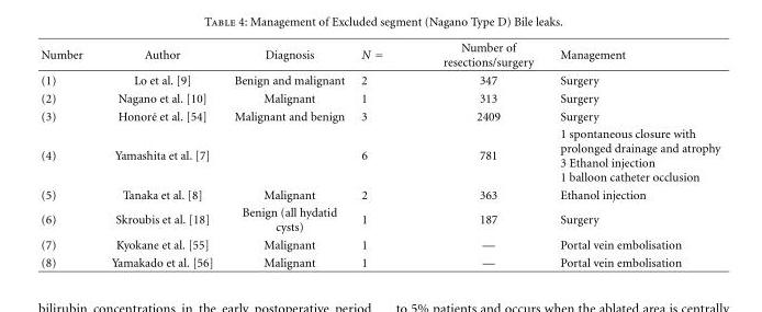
<table><thead><tr><td>Number</td><td>Author</td><td>Diagnosis</td><td>N =</td><td>Number of resections/surgery</td><td>Management</td></tr></thead><tbody><tr><td>(1)</td><td>Lo et al. [9]</td><td>Benign and malignant</td><td>2</td><td>347</td><td>Surgery</td></tr><tr><td>(2)</td><td>Nagano et al. [10]</td><td>Malignant</td><td>1</td><td>313</td><td>Surgery</td></tr><tr><td>(3)</td><td>Honor´e et al. [54]</td><td>Malignant and benign</td><td>3</td><td>2409</td><td>Surgery</td></tr><tr><td>(4)</td><td>Yamashita et al. [7]</td><td></td><td>6</td><td>781</td><td>1 spontaneous closure with prolonged drainage and atrophy 3 Ethanol injection 1 balloon catheter occlusion</td></tr><tr><td>(5)</td><td>Tanaka et al. [8]</td><td>Malignant</td><td>2</td><td>363</td><td>Ethanol injection</td></tr><tr><td>(6)</td><td>Skroubis et al. [18]</td><td>Benign (all hydatid cysts)</td><td>1</td><td>187</td><td>Surgery</td></tr><tr><td>(7)</td><td>Kyokane et al. [55]</td><td>Malignant</td><td>1</td><td>—</td><td>Portal vein embolisation</td></tr><tr><td>(8)</td><td>Yamakado et al. [56]</td><td>Malignant</td><td>1</td><td>—</td><td>Portal vein embolisation</td></tr></tbody></table>